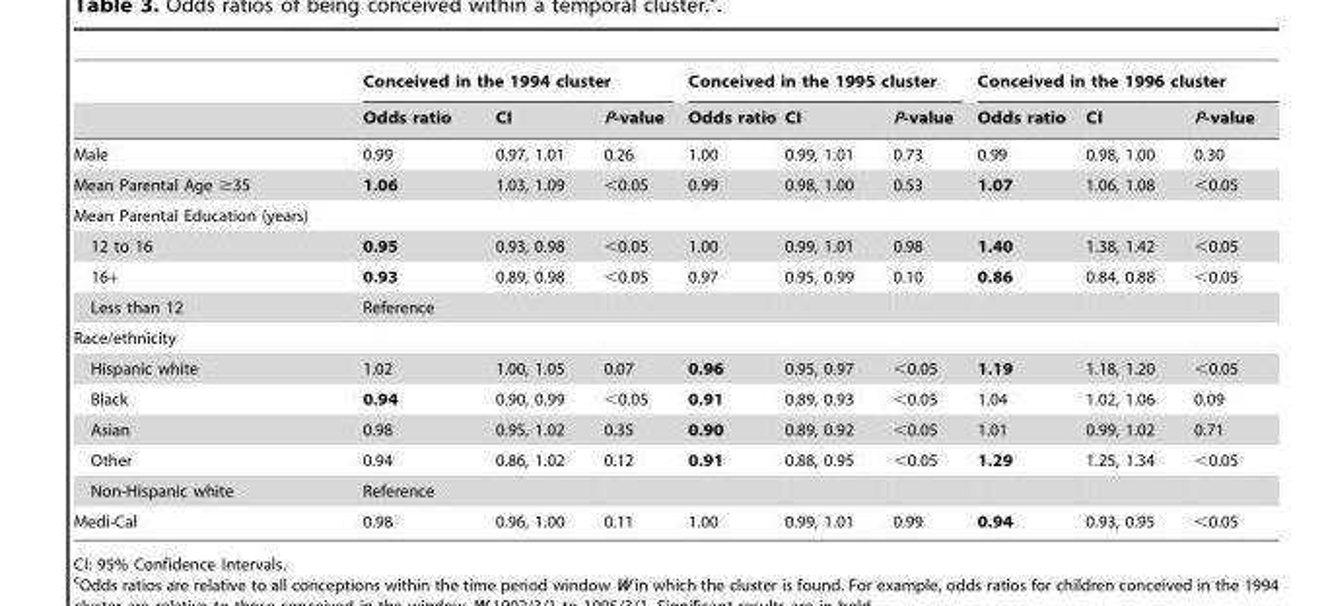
<table><thead><tr><td rowspan="2"></td><td colspan="3">Conceived in the 1994 cluster</td><td colspan="3">Conceived in the 1995 cluster</td><td colspan="3">Conceived in the 1996 cluster</td></tr><tr><td>Odds ratio</td><td>CI</td><td>P-value</td><td>Odds ratio</td><td>CI</td><td>P-value</td><td>Odds ratio</td><td>CI</td><td>P-value</td></tr></thead><tbody><tr><td>Male</td><td>0.99</td><td>0.97, 1.01</td><td>0.26</td><td>1.00</td><td>0.99, 1.01</td><td>0.73</td><td>0.99</td><td>0.98, 1.00</td><td>0.30</td></tr><tr><td>Mean Parental Age ≥35</td><td>1.06</td><td>1.03, 1.09</td><td>&lt;0.05</td><td>0.99</td><td>0.98, 1.00</td><td>0.53</td><td>1.07</td><td>1.06, 1.08</td><td>&lt;0.05</td></tr><tr><td colspan="10">Mean Parental Education (years)</td></tr><tr><td>12 to 16</td><td>0.95</td><td>0.93, 0.98</td><td>&lt;0.05</td><td>1.00</td><td>0.99, 1.01</td><td>0.98</td><td>1.40</td><td>1.38, 1.42</td><td>&lt;0.05</td></tr><tr><td>16+</td><td>0.93</td><td>0.89, 0.98</td><td>&lt;0.05</td><td>0.97</td><td>0.95, 0.99</td><td>0.10</td><td>0.86</td><td>0.84, 0.88</td><td>&lt;0.05</td></tr><tr><td>Less than 12</td><td>Reference</td><td></td><td></td><td></td><td></td><td></td><td></td><td></td><td></td></tr><tr><td colspan="10">Race/ethnicity</td></tr><tr><td>Hispanic white</td><td>1.02</td><td>1.00, 1.05</td><td>0.07</td><td>0.96</td><td>0.95, 0.97</td><td>&lt;0.05</td><td>1.19</td><td>1.18, 1.20</td><td>&lt;0.05</td></tr><tr><td>Black</td><td>0.94</td><td>0.90, 0.99</td><td>&lt;0.05</td><td>0.91</td><td>0.89, 0.93</td><td>&lt;0.05</td><td>1.04</td><td>1.02, 1.06</td><td>0.09</td></tr><tr><td>Asian</td><td>0.98</td><td>0.95, 1.02</td><td>0.35</td><td>0.90</td><td>0.89, 0.92</td><td>&lt;0.05</td><td>1.01</td><td>0.99, 1.02</td><td>0.71</td></tr><tr><td>Other</td><td>0.94</td><td>0.86, 1.02</td><td>0.12</td><td>0.91</td><td>0.88, 0.95</td><td>&lt;0.05</td><td>1.29</td><td>1.25, 1.34</td><td>&lt;0.05</td></tr><tr><td>Non-Hispanic white</td><td>Reference</td><td></td><td></td><td></td><td></td><td></td><td></td><td></td><td></td></tr><tr><td>Medi-Cal</td><td>0.98</td><td>0.96, 1.00</td><td>0.11</td><td>1.00</td><td>0.99, 1.01</td><td>0.99</td><td>0.94</td><td>0.93, 0.95</td><td>&lt;0.05</td></tr></tbody></table>